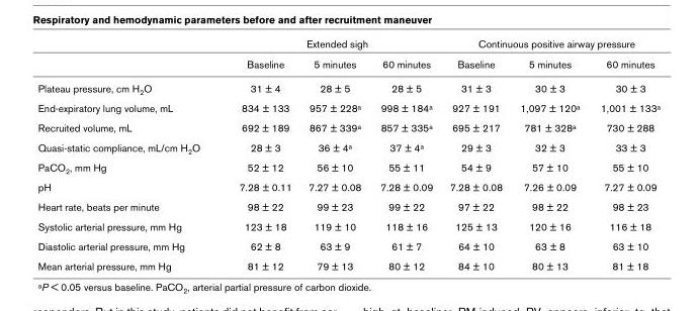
<table><thead><tr><td rowspan="2"></td><td colspan="3">Extended sigh</td><td colspan="3">Continuous positive airway pressure</td></tr><tr><td>Baseline</td><td>5 minutes</td><td>60 minutes</td><td>Baseline</td><td>5 minutes</td><td>60 minutes</td></tr></thead><tbody><tr><td>Plateau pressure, cm H<sub>2</sub>O</td><td>31 ± 4</td><td>28 ± 5</td><td>28 ± 5</td><td>31 ± 3</td><td>30 ± 3</td><td>30 ± 3</td></tr><tr><td>End-expiratory lung volume, mL</td><td>834 ± 133</td><td>957 ± 228<sup>a</sup></td><td>998 ± 184<sup>a</sup></td><td>927 ± 191</td><td>1,097 ± 120<sup>a</sup></td><td>1,001 ± 133<sup>a</sup></td></tr><tr><td>Recruited volume, mL</td><td>692 ± 189</td><td>867 ± 339<sup>a</sup></td><td>857 ± 335<sup>a</sup></td><td>695 ± 217</td><td>781 ± 328<sup>a</sup></td><td>730 ± 288</td></tr><tr><td>Quasi-static compliance, mL/cm H<sub>2</sub>O</td><td>28 ± 3</td><td>36 ± 4<sup>a</sup></td><td>37 ± 4<sup>a</sup></td><td>29 ± 3</td><td>32 ± 3</td><td>33 ± 3</td></tr><tr><td>PaCO<sub>2</sub>, mm Hg</td><td>52 ± 12</td><td>56 ± 10</td><td>55 ± 11</td><td>54 ± 9</td><td>57 ± 10</td><td>55 ± 10</td></tr><tr><td>pH</td><td>7.28 ± 0.11</td><td>7.27 ± 0.08</td><td>7.28 ± 0.09</td><td>7.28 ± 0.08</td><td>7.26 ± 0.09</td><td>7.27 ± 0.09</td></tr><tr><td>Heart rate, beats per minute</td><td>98 ± 22</td><td>99 ± 23</td><td>99 ± 22</td><td>97 ± 22</td><td>98 ± 22</td><td>98 ± 23</td></tr><tr><td>Systolic arterial pressure, mm Hg</td><td>123 ± 18</td><td>119 ± 10</td><td>118 ± 16</td><td>125 ± 13</td><td>120 ± 16</td><td>116 ± 18</td></tr><tr><td>Diastolic arterial pressure, mm Hg</td><td>62 ± 8</td><td>63 ± 9</td><td>61 ± 7</td><td>64 ± 10</td><td>63 ± 8</td><td>63 ± 10</td></tr><tr><td>Mean arterial pressure, mm Hg</td><td>81 ± 12</td><td>79 ± 13</td><td>80 ± 12</td><td>84 ± 10</td><td>80 ± 13</td><td>81 ± 18</td></tr></tbody></table>